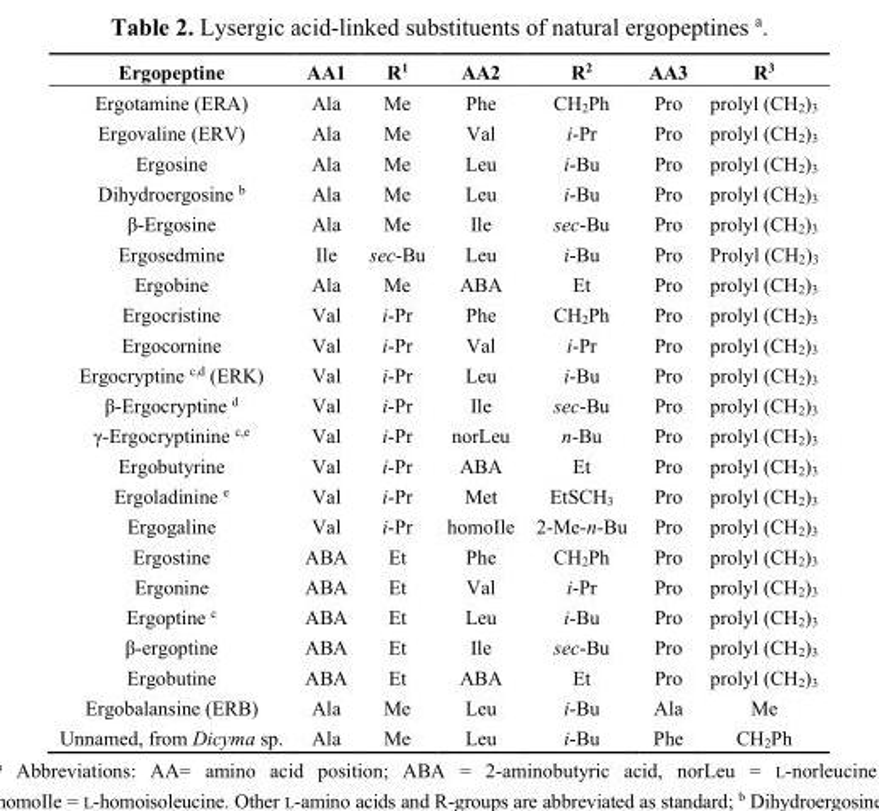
<table><thead><tr><td>Ergopeptine</td><td>AA1</td><td>R<sup>1</sup></td><td>AA2</td><td>R<sup>2</sup></td><td>AA3</td><td>R<sup>3</sup></td></tr></thead><tbody><tr><td>Ergotamine (ERA)</td><td>Ala</td><td>Me</td><td>Phe</td><td>CH<sub>2</sub>Ph</td><td>Pro</td><td>prolyl (CH<sub>2</sub>)<sub>3</sub></td></tr><tr><td>Ergovaline (ERV)</td><td>Ala</td><td>Me</td><td>Val</td><td>i-Pr</td><td>Pro</td><td>prolyl (CH<sub>2</sub>)<sub>3</sub></td></tr><tr><td>Ergosine</td><td>Ala</td><td>Me</td><td>Leu</td><td>i-Bu</td><td>Pro</td><td>prolyl (CH<sub>2</sub>)<sub>3</sub></td></tr><tr><td>Dihydroergosine <sup>b</sup></td><td>Ala</td><td>Me</td><td>Leu</td><td>i-Bu</td><td>Pro</td><td>prolyl (CH<sub>2</sub>)<sub>3</sub></td></tr><tr><td>β-Ergosine</td><td>Ala</td><td>Me</td><td>Ile</td><td>sec-Bu</td><td>Pro</td><td>prolyl (CH<sub>2</sub>)<sub>3</sub></td></tr><tr><td>Ergosedmine</td><td>Ile</td><td>sec-Bu</td><td>Leu</td><td>i-Bu</td><td>Pro</td><td>Prolyl (CH<sub>2</sub>)<sub>3</sub></td></tr><tr><td>Ergobine</td><td>Ala</td><td>Me</td><td>ABA</td><td>Et</td><td>Pro</td><td>prolyl (CH<sub>2</sub>)<sub>3</sub></td></tr><tr><td>Ergocristine</td><td>Val</td><td>i-Pr</td><td>Phe</td><td>CH<sub>2</sub>Ph</td><td>Pro</td><td>prolyl (CH<sub>2</sub>)<sub>3</sub></td></tr><tr><td>Ergocornine</td><td>Val</td><td>i-Pr</td><td>Val</td><td>i-Pr</td><td>Pro</td><td>prolyl (CH<sub>2</sub>)<sub>3</sub></td></tr><tr><td>Ergocryptine <sup>c,d</sup> (ERK)</td><td>Val</td><td>i-Pr</td><td>Leu</td><td>i-Bu</td><td>Pro</td><td>prolyl (CH<sub>2</sub>)<sub>3</sub></td></tr><tr><td>β-Ergocryptine <sup>d</sup></td><td>Val</td><td>i-Pr</td><td>Ile</td><td>sec-Bu</td><td>Pro</td><td>prolyl (CH<sub>2</sub>)<sub>3</sub></td></tr><tr><td>γ-Ergocryptinine <sup>c,e</sup></td><td>Val</td><td>i-Pr</td><td>norLeu</td><td>n-Bu</td><td>Pro</td><td>prolyl (CH<sub>2</sub>)<sub>3</sub></td></tr><tr><td>Ergobutyrine</td><td>Val</td><td>i-Pr</td><td>ABA</td><td>Et</td><td>Pro</td><td>prolyl (CH<sub>2</sub>)<sub>3</sub></td></tr><tr><td>Ergoladinine <sup>e</sup></td><td>Val</td><td>i-Pr</td><td>Met</td><td>EtSCH<sub>3</sub></td><td>Pro</td><td>prolyl (CH<sub>2</sub>)<sub>3</sub></td></tr><tr><td>Ergogaline</td><td>Val</td><td>i-Pr</td><td>homoIle</td><td>2-Me-n-Bu</td><td>Pro</td><td>prolyl (CH<sub>2</sub>)<sub>3</sub></td></tr><tr><td>Ergostine</td><td>ABA</td><td>Et</td><td>Phe</td><td>CH<sub>2</sub>Ph</td><td>Pro</td><td>prolyl (CH<sub>2</sub>)<sub>3</sub></td></tr><tr><td>Ergonine</td><td>ABA</td><td>Et</td><td>Val</td><td>i-Pr</td><td>Pro</td><td>prolyl (CH<sub>2</sub>)<sub>3</sub></td></tr><tr><td>Ergoptine <sup>c</sup></td><td>ABA</td><td>Et</td><td>Leu</td><td>i-Bu</td><td>Pro</td><td>prolyl (CH<sub>2</sub>)<sub>3</sub></td></tr><tr><td>β-ergoptine</td><td>ABA</td><td>Et</td><td>Ile</td><td>sec-Bu</td><td>Pro</td><td>prolyl (CH<sub>2</sub>)<sub>3</sub></td></tr><tr><td>Ergobutine</td><td>ABA</td><td>Et</td><td>ABA</td><td>Et</td><td>Pro</td><td>prolyl (CH<sub>2</sub>)<sub>3</sub></td></tr><tr><td>Ergobalansine (ERB)</td><td>Ala</td><td>Me</td><td>Leu</td><td>i-Bu</td><td>Ala</td><td>Me</td></tr><tr><td>Unnamed, from Dicyma sp.</td><td>Ala</td><td>Me</td><td>Leu</td><td>i-Bu</td><td>Phe</td><td>CH<sub>2</sub>Ph</td></tr></tbody></table>